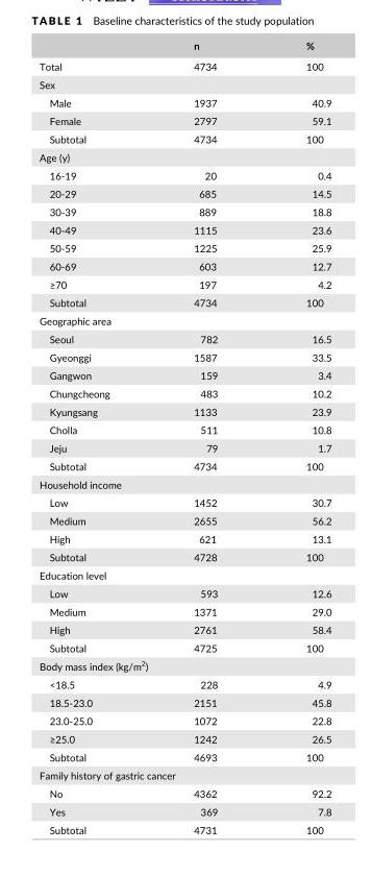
<table><thead><tr><td></td><td>n</td><td>%</td></tr></thead><tbody><tr><td>Total</td><td>4734</td><td>100</td></tr><tr><td colspan="3">Sex</td></tr><tr><td>Male</td><td>1937</td><td>40.9</td></tr><tr><td>Female</td><td>2797</td><td>59.1</td></tr><tr><td>Subtotal</td><td>4734</td><td>100</td></tr><tr><td colspan="3">Age (y)</td></tr><tr><td>16- 19</td><td>20</td><td>0.4</td></tr><tr><td>20- 29</td><td>685</td><td>14.5</td></tr><tr><td>30- 39</td><td>889</td><td>18.8</td></tr><tr><td>40- 49</td><td>1115</td><td>23.6</td></tr><tr><td>50- 59</td><td>1225</td><td>25.9</td></tr><tr><td>60- 69</td><td>603</td><td>12.7</td></tr><tr><td>≥70</td><td>197</td><td>4.2</td></tr><tr><td>Subtotal</td><td>4734</td><td>100</td></tr><tr><td colspan="3">Geographic area</td></tr><tr><td>Seoul</td><td>782</td><td>16.5</td></tr><tr><td>Gyeonggi</td><td>1587</td><td>33.5</td></tr><tr><td>Gangwon</td><td>159</td><td>3.4</td></tr><tr><td>Chungcheong</td><td>483</td><td>10.2</td></tr><tr><td>Kyungsang</td><td>1133</td><td>23.9</td></tr><tr><td>Cholla</td><td>511</td><td>10.8</td></tr><tr><td>Jeju</td><td>79</td><td>1.7</td></tr><tr><td>Subtotal</td><td>4734</td><td>100</td></tr><tr><td colspan="3">Household income</td></tr><tr><td>Low</td><td>1452</td><td>30.7</td></tr><tr><td>Medium</td><td>2655</td><td>56.2</td></tr><tr><td>High</td><td>621</td><td>13.1</td></tr><tr><td>Subtotal</td><td>4728</td><td>100</td></tr><tr><td colspan="3">Education level</td></tr><tr><td>Low</td><td>593</td><td>12.6</td></tr><tr><td>Medium</td><td>1371</td><td>29.0</td></tr><tr><td>High</td><td>2761</td><td>58.4</td></tr><tr><td>Subtotal</td><td>4725</td><td>100</td></tr><tr><td colspan="3">Body mass index (kg/m<sup>2</sup>)</td></tr><tr><td>&lt;18.5</td><td>228</td><td>4.9</td></tr><tr><td>18.5- 23.0</td><td>2151</td><td>45.8</td></tr><tr><td>23.0- 25.0</td><td>1072</td><td>22.8</td></tr><tr><td>≥25.0</td><td>1242</td><td>26.5</td></tr><tr><td>Subtotal</td><td>4693</td><td>100</td></tr><tr><td colspan="3">Family history of gastric cancer</td></tr><tr><td>No</td><td>4362</td><td>92.2</td></tr><tr><td>Yes</td><td>369</td><td>7.8</td></tr><tr><td>Subtotal</td><td>4731</td><td>100</td></tr></tbody></table>